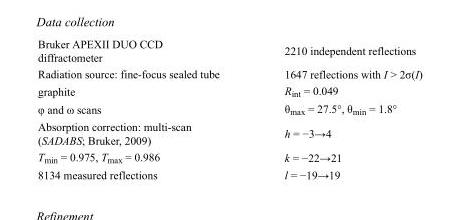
<table><tbody><tr><td>Bruker APEXII DUO CCD diffractometer</td><td>2210 independent reflections</td></tr><tr><td>Radiation source: fine-focus sealed tube</td><td>1647 reflections with I &gt; 2σ(I)</td></tr><tr><td>graphite</td><td>R<sub>int</sub> = 0.049</td></tr><tr><td>φ and ω scans</td><td>θ<sub>max</sub> = 27.5°, θ<sub>min</sub> = 1.8°</td></tr><tr><td>Absorption correction: multi-scan (SADABS; Bruker, 2009)</td><td>h = −3→4</td></tr><tr><td>T<sub>min</sub> = 0.975, T<sub>max</sub> = 0.986</td><td>k = −22→21</td></tr><tr><td>8134 measured reflections</td><td>l = −19→19</td></tr></tbody></table>